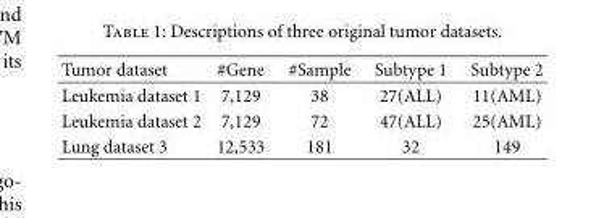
<table><thead><tr><td>Tumor dataset</td><td>#Gene</td><td>#Sample</td><td>Subtype 1</td><td>Subtype 2</td></tr></thead><tbody><tr><td>Leukemia dataset 1</td><td>7,129</td><td>38</td><td>27(ALL)</td><td>11(AML)</td></tr><tr><td>Leukemia dataset 2</td><td>7,129</td><td>72</td><td>47(ALL)</td><td>25(AML)</td></tr><tr><td>Lung dataset 3</td><td>12,533</td><td>181</td><td>32</td><td>149</td></tr></tbody></table>